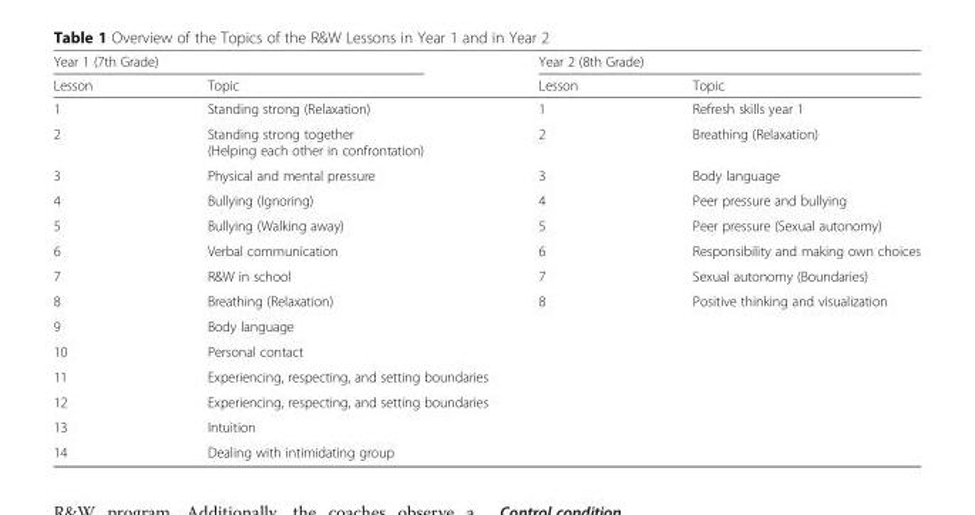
<table><thead><tr><td colspan="2">Year 1 (7th Grade)</td><td colspan="2">Year 2 (8th Grade)</td></tr><tr><td>Lesson</td><td>Topic</td><td>Lesson</td><td>Topic</td></tr></thead><tbody><tr><td>1</td><td>Standing strong (Relaxation)</td><td>1</td><td>Refresh skills year 1</td></tr><tr><td>2</td><td>Standing strong together (Helping each other in confrontation)</td><td>2</td><td>Breathing (Relaxation)</td></tr><tr><td>3</td><td>Physical and mental pressure</td><td>3</td><td>Body language</td></tr><tr><td>4</td><td>Bullying (Ignoring)</td><td>4</td><td>Peer pressure and bullying</td></tr><tr><td>5</td><td>Bullying (Walking away)</td><td>5</td><td>Peer pressure (Sexual autonomy)</td></tr><tr><td>6</td><td>Verbal communication</td><td>6</td><td>Responsibility and making own choices</td></tr><tr><td>7</td><td>R&amp;W in school</td><td>7</td><td>Sexual autonomy (Boundaries)</td></tr><tr><td>8</td><td>Breathing (Relaxation)</td><td>8</td><td>Positive thinking and visualization</td></tr><tr><td>9</td><td colspan="3">Body language</td></tr><tr><td>10</td><td colspan="3">Personal contact</td></tr><tr><td>11</td><td colspan="3">Experiencing, respecting, and setting boundaries</td></tr><tr><td>12</td><td colspan="3">Experiencing, respecting, and setting boundaries</td></tr><tr><td>13</td><td colspan="3">Intuition</td></tr><tr><td>14</td><td colspan="3">Dealing with intimidating group</td></tr></tbody></table>